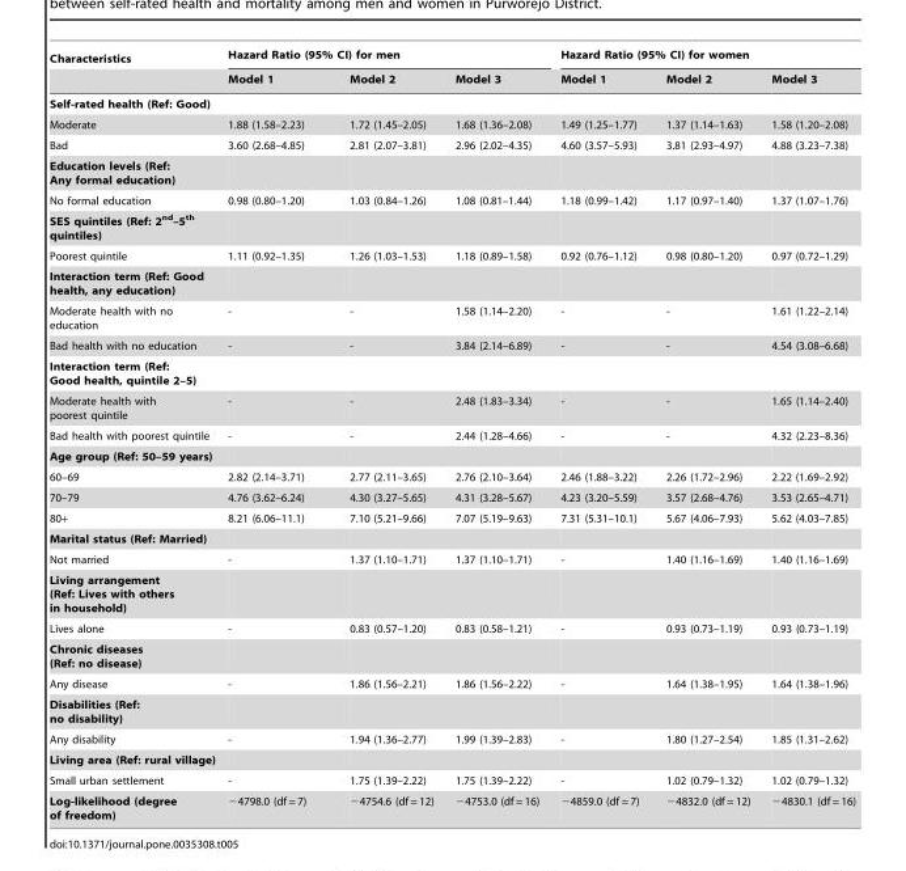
<table><thead><tr><td rowspan="2">Characteristics</td><td colspan="3">Hazard Ratio (95% CI) for men</td><td colspan="3">Hazard Ratio (95% CI) for women</td></tr><tr><td>Model 1</td><td>Model 2</td><td>Model 3</td><td>Model 1</td><td>Model 2</td><td>Model 3</td></tr></thead><tbody><tr><td colspan="7">Self-rated health (Ref: Good)</td></tr><tr><td>Moderate</td><td>1.88 (1.58–2.23)</td><td>1.72 (1.45–2.05)</td><td>1.68 (1.36–2.08)</td><td>1.49 (1.25–1.77)</td><td>1.37 (1.14–1.63)</td><td>1.58 (1.20–2.08)</td></tr><tr><td>Bad</td><td>3.60 (2.68–4.85)</td><td>2.81 (2.07–3.81)</td><td>2.96 (2.02–4.35)</td><td>4.60 (3.57–5.93)</td><td>3.81 (2.93–4.97)</td><td>4.88 (3.23–7.38)</td></tr><tr><td colspan="7">Education levels (Ref: Any formal education)</td></tr><tr><td>No formal education</td><td>0.98 (0.80–1.20)</td><td>1.03 (0.84–1.26)</td><td>1.08 (0.81–1.44)</td><td>1.18 (0.99–1.42)</td><td>1.17 (0.97–1.40)</td><td>1.37 (1.07–1.76)</td></tr><tr><td colspan="7">SES quintiles (Ref: 2<sup>nd</sup>–5<sup>th</sup> quintiles)</td></tr><tr><td>Poorest quintile</td><td>1.11 (0.92–1.35)</td><td>1.26 (1.03–1.53)</td><td>1.18 (0.89–1.58)</td><td>0.92 (0.76–1.12)</td><td>0.98 (0.80–1.20)</td><td>0.97 (0.72–1.29)</td></tr><tr><td colspan="7">Interaction term (Ref: Good health, any education)</td></tr><tr><td>Moderate health with no education</td><td>-</td><td>-</td><td>1.58 (1.14–2.20)</td><td>-</td><td>-</td><td>1.61 (1.22–2.14)</td></tr><tr><td>Bad health with no education</td><td>-</td><td>-</td><td>3.84 (2.14–6.89)</td><td>-</td><td>-</td><td>4.54 (3.08–6.68)</td></tr><tr><td colspan="7">Interaction term (Ref: Good health, quintile 2–5)</td></tr><tr><td>Moderate health with poorest quintile</td><td>-</td><td>-</td><td>2.48 (1.83–3.34)</td><td>-</td><td>-</td><td>1.65 (1.14–2.40)</td></tr><tr><td>Bad health with poorest quintile</td><td>-</td><td>-</td><td>2.44 (1.28–4.66)</td><td>-</td><td>-</td><td>4.32 (2.23–8.36)</td></tr><tr><td colspan="7">Age group (Ref: 50–59 years)</td></tr><tr><td>60–69</td><td>2.82 (2.14–3.71)</td><td>2.77 (2.11–3.65)</td><td>2.76 (2.10–3.64)</td><td>2.46 (1.88–3.22)</td><td>2.26 (1.72–2.96)</td><td>2.22 (1.69–2.92)</td></tr><tr><td>70–79</td><td>4.76 (3.62–6.24)</td><td>4.30 (3.27–5.65)</td><td>4.31 (3.28–5.67)</td><td>4.23 (3.20–5.59)</td><td>3.57 (2.68–4.76)</td><td>3.53 (2.65–4.71)</td></tr><tr><td>80+</td><td>8.21 (6.06–11.1)</td><td>7.10 (5.21–9.66)</td><td>7.07 (5.19–9.63)</td><td>7.31 (5.31–10.1)</td><td>5.67 (4.06–7.93)</td><td>5.62 (4.03–7.85)</td></tr><tr><td colspan="7">Marital status (Ref: Married)</td></tr><tr><td>Not married</td><td>-</td><td>1.37 (1.10–1.71)</td><td>1.37 (1.10–1.71)</td><td>-</td><td>1.40 (1.16–1.69)</td><td>1.40 (1.16–1.69)</td></tr><tr><td colspan="7">Living arrangement (Ref: Lives with others in household)</td></tr><tr><td>Lives alone</td><td>-</td><td>0.83 (0.57–1.20)</td><td>0.83 (0.58–1.21)</td><td>-</td><td>0.93 (0.73–1.19)</td><td>0.93 (0.73–1.19)</td></tr><tr><td colspan="7">Chronic diseases (Ref: no disease)</td></tr><tr><td>Any disease</td><td>-</td><td>1.86 (1.56–2.21)</td><td>1.86 (1.56–2.22)</td><td>-</td><td>1.64 (1.38–1.95)</td><td>1.64 (1.38–1.96)</td></tr><tr><td colspan="7">Disabilities (Ref: no disability)</td></tr><tr><td>Any disability</td><td>-</td><td>1.94 (1.36–2.77)</td><td>1.99 (1.39–2.83)</td><td>-</td><td>1.80 (1.27–2.54)</td><td>1.85 (1.31–2.62)</td></tr><tr><td colspan="7">Living area (Ref: rural village)</td></tr><tr><td>Small urban settlement</td><td>-</td><td>1.75 (1.39–2.22)</td><td>1.75 (1.39–2.22)</td><td>-</td><td>1.02 (0.79–1.32)</td><td>1.02 (0.79–1.32)</td></tr><tr><td>Log-likelihood (degree of freedom)</td><td>−4798.0 (df = 7)</td><td>−4754.6 (df = 12)</td><td>−4753.0 (df = 16)</td><td>−4859.0 (df = 7)</td><td>−4832.0 (df = 12)</td><td>−4830.1 (df = 16)</td></tr></tbody></table>